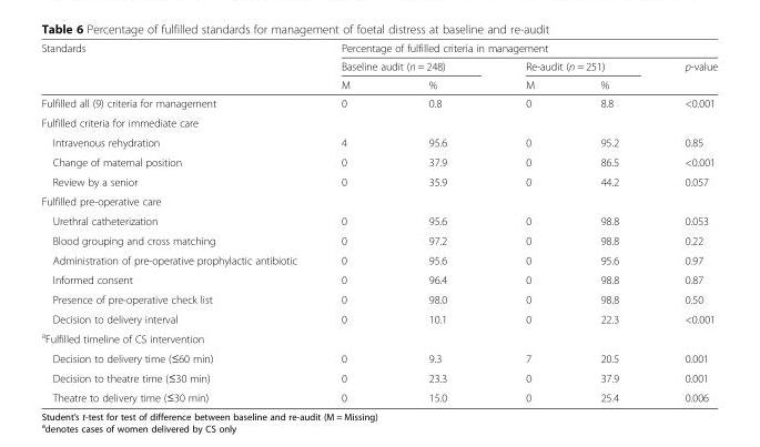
<table><thead><tr><td rowspan="3">Standards</td><td colspan="5">Percentage of fulfilled criteria in management</td></tr><tr><td colspan="2">Baseline audit (n = 248)</td><td colspan="2">Re-audit (n = 251)</td><td rowspan="2">p-value</td></tr><tr><td>M</td><td>%</td><td>M</td><td>%</td></tr></thead><tbody><tr><td>Fulfilled all (9) criteria for management</td><td>0</td><td>0.8</td><td>0</td><td>8.8</td><td>&lt;0.001</td></tr><tr><td colspan="6">Fulfilled criteria for immediate care</td></tr><tr><td>Intravenous rehydration</td><td>4</td><td>95.6</td><td>0</td><td>95.2</td><td>0.85</td></tr><tr><td>Change of maternal position</td><td>0</td><td>37.9</td><td>0</td><td>86.5</td><td>&lt;0.001</td></tr><tr><td>Review by a senior</td><td>0</td><td>35.9</td><td>0</td><td>44.2</td><td>0.057</td></tr><tr><td colspan="6">Fulfilled pre-operative care</td></tr><tr><td>Urethral catheterization</td><td>0</td><td>95.6</td><td>0</td><td>98.8</td><td>0.053</td></tr><tr><td>Blood grouping and cross matching</td><td>0</td><td>97.2</td><td>0</td><td>98.8</td><td>0.22</td></tr><tr><td>Administration of pre-operative prophylactic antibiotic</td><td>0</td><td>95.6</td><td>0</td><td>95.6</td><td>0.97</td></tr><tr><td>Informed consent</td><td>0</td><td>96.4</td><td>0</td><td>98.8</td><td>0.87</td></tr><tr><td>Presence of pre-operative check list</td><td>0</td><td>98.0</td><td>0</td><td>98.8</td><td>0.50</td></tr><tr><td>Decision to delivery interval</td><td>0</td><td>10.1</td><td>0</td><td>22.3</td><td>&lt;0.001</td></tr><tr><td colspan="6"><sup>a</sup>Fulfilled timeline of CS intervention</td></tr><tr><td>Decision to delivery time (≤60 min)</td><td>0</td><td>9.3</td><td>7</td><td>20.5</td><td>0.001</td></tr><tr><td>Decision to theatre time (≤30 min)</td><td>0</td><td>23.3</td><td>0</td><td>37.9</td><td>0.001</td></tr><tr><td>Theatre to delivery time (≤30 min)</td><td>0</td><td>15.0</td><td>0</td><td>25.4</td><td>0.006</td></tr></tbody></table>